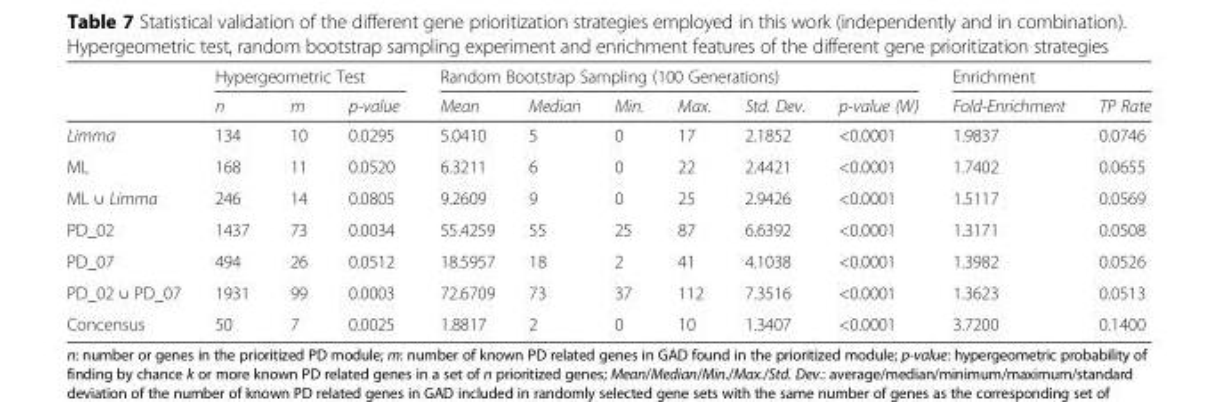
<table><thead><tr><td rowspan="2"></td><td colspan="3">Hypergeometric Test</td><td colspan="6">Random Bootstrap Sampling (100 Generations)</td><td colspan="2">Enrichment</td></tr><tr><td>n</td><td>m</td><td>p-value</td><td>Mean</td><td>Median</td><td>Min.</td><td>Max.</td><td>Std. Dev.</td><td>p-value (W)</td><td>Fold-Enrichment</td><td>TP Rate</td></tr></thead><tbody><tr><td>Limma</td><td>134</td><td>10</td><td>0.0295</td><td>5.0410</td><td>5</td><td>0</td><td>17</td><td>2.1852</td><td>&lt;0.0001</td><td>1.9837</td><td>0.0746</td></tr><tr><td>ML</td><td>168</td><td>11</td><td>0.0520</td><td>6.3211</td><td>6</td><td>0</td><td>22</td><td>2.4421</td><td>&lt;0.0001</td><td>1.7402</td><td>0.0655</td></tr><tr><td>ML ∪ Limma</td><td>246</td><td>14</td><td>0.0805</td><td>9.2609</td><td>9</td><td>0</td><td>25</td><td>2.9426</td><td>&lt;0.0001</td><td>1.5117</td><td>0.0569</td></tr><tr><td>PD_02</td><td>1437</td><td>73</td><td>0.0034</td><td>55.4259</td><td>55</td><td>25</td><td>87</td><td>6.6392</td><td>&lt;0.0001</td><td>1.3171</td><td>0.0508</td></tr><tr><td>PD_07</td><td>494</td><td>26</td><td>0.0512</td><td>18.5957</td><td>18</td><td>2</td><td>41</td><td>4.1038</td><td>&lt;0.0001</td><td>1.3982</td><td>0.0526</td></tr><tr><td>PD_02 ∪ PD_07</td><td>1931</td><td>99</td><td>0.0003</td><td>72.6709</td><td>73</td><td>37</td><td>112</td><td>7.3516</td><td>&lt;0.0001</td><td>1.3623</td><td>0.0513</td></tr><tr><td>Concensus</td><td>50</td><td>7</td><td>0.0025</td><td>1.8817</td><td>2</td><td>0</td><td>10</td><td>1.3407</td><td>&lt;0.0001</td><td>3.7200</td><td>0.1400</td></tr></tbody></table>